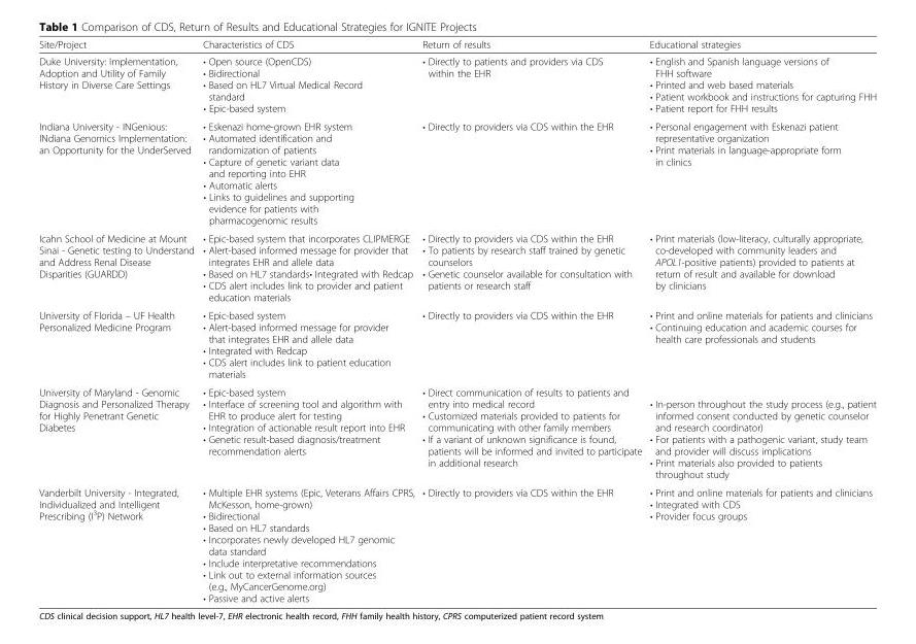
<table><thead><tr><td>Site/Project</td><td>Characteristics of CDS</td><td>Return of results</td><td>Educational strategies</td></tr></thead><tbody><tr><td>Duke University: Implementation, Adoption and Utility of Family History in Diverse Care Settings</td><td>• Open source (OpenCDS) • Bidirectional • Based on HL7 Virtual Medical Record standard • Epic-based system</td><td>• Directly to patients and providers via CDS within the EHR</td><td>• English and Spanish language versions of FHH software • Printed and web based materials • Patient workbook and instructions for capturing FHH • Patient report for FHH results</td></tr><tr><td>Indiana University - INGenious: INdiana Genomics Implementation: an Opportunity for the UnderServed</td><td>• Eskenazi home-grown EHR system • Automated identification and randomization of patients • Capture of genetic variant data and reporting into EHR • Automatic alerts • Links to guidelines and supporting evidence for patients with pharmacogenomic results</td><td>• Directly to providers via CDS within the EHR</td><td>• Personal engagement with Eskenazi patient representative organization • Print materials in language-appropriate form in clinics</td></tr><tr><td>Icahn School of Medicine at Mount Sinai - Genetic testing to Understand and Address Renal Disease Disparities (GUARDD)</td><td>• Epic-based system that incorporates CLIPMERGE • Alert-based informed message for provider that integrates EHR and allele data • Based on HL7 standards• Integrated with Redcap • CDS alert includes link to provider and patient education materials</td><td>• Directly to providers via CDS within the EHR • To patients by research staff trained by genetic counselors • Genetic counselor available for consultation with patients or research staff</td><td>• Print materials (low-literacy, culturally appropriate, co-developed with community leaders and APOL1-positive patients) provided to patients at return of result and available for download by clinicians</td></tr><tr><td>University of Florida – UF Health Personalized Medicine Program</td><td>• Epic-based system • Alert-based informed message for provider that integrates EHR and allele data • Integrated with Redcap • CDS alert includes link to patient education materials</td><td>• Directly to providers via CDS within the EHR</td><td>• Print and online materials for patients and clinicians • Continuing education and academic courses for health care professionals and students</td></tr><tr><td>University of Maryland - Genomic Diagnosis and Personalized Therapy for Highly Penetrant Genetic Diabetes</td><td>• Epic-based system • Interface of screening tool and algorithm with EHR to produce alert for testing • Integration of actionable result report into EHR • Genetic result-based diagnosis/treatment recommendation alerts</td><td>• Direct communication of results to patients and entry into medical record • Customized materials provided to patients for communicating with other family members • If a variant of unknown significance is found, patients will be informed and invited to participate in additional research</td><td>• In-person throughout the study process (e.g., patient informed consent conducted by genetic counselor and research coordinator) • For patients with a pathogenic variant, study team and provider will discuss implications • Print materials also provided to patients throughout study</td></tr><tr><td>Vanderbilt University - Integrated, Individualized and Intelligent Prescribing (I<sup>3</sup>P) Network</td><td>• Multiple EHR systems (Epic, Veterans Affairs CPRS, McKesson, home-grown) • Bidirectional • Based on HL7 standards • Incorporates newly developed HL7 genomic data standard • Include interpretative recommendations • Link out to external information sources (e.g., MyCancerGenome.org) • Passive and active alerts</td><td>• Directly to providers via CDS within the EHR</td><td>• Print and online materials for patients and clinicians • Integrated with CDS • Provider focus groups</td></tr></tbody></table>